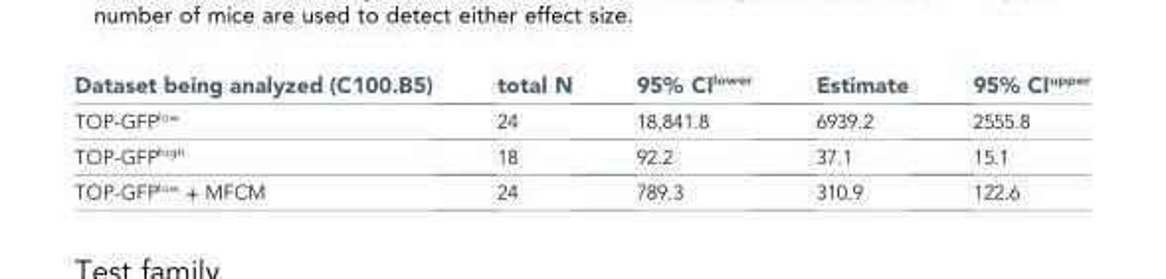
<table><thead><tr><td>Dataset being analyzed (C100.B5)</td><td>total N</td><td>95% CI<sup>lower</sup></td><td>Estimate</td><td>95% CI<sup>upper</sup></td></tr></thead><tbody><tr><td>TOP-GFP<sup>low</sup></td><td>24</td><td>18,841.8</td><td>6939.2</td><td>2555.8</td></tr><tr><td>TOP-GFP<sup>high</sup></td><td>18</td><td>92.2</td><td>37.1</td><td>15.1</td></tr><tr><td>TOP-GFP<sup>low</sup> + MFCM</td><td>24</td><td>789.3</td><td>310.9</td><td>122.6</td></tr></tbody></table>